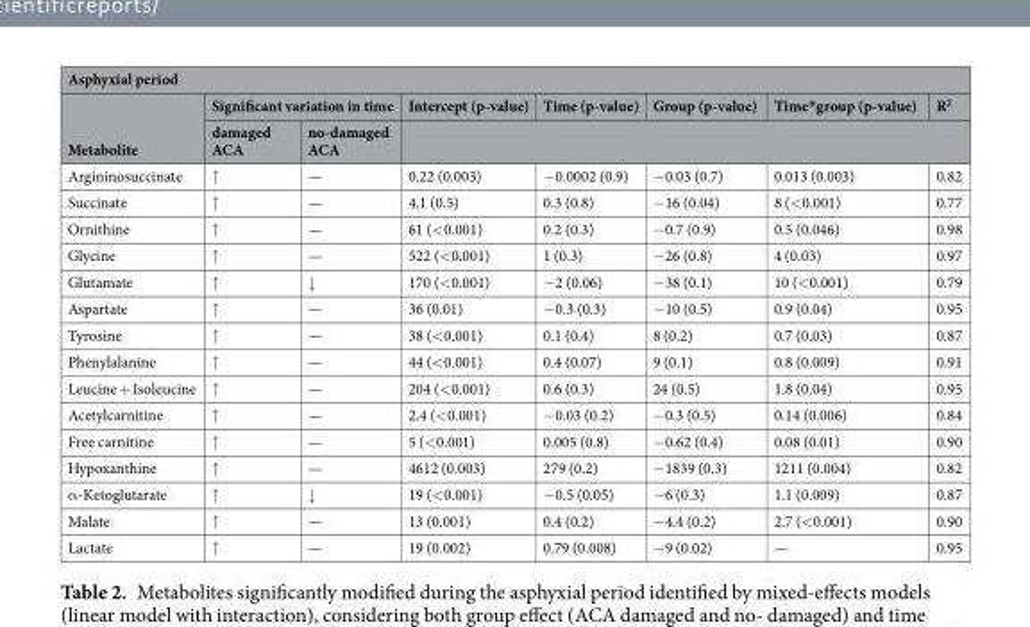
<table><thead><tr><td colspan="8">Asphyxial period</td></tr><tr><td rowspan="2">Metabolite</td><td colspan="2">Significant variation in time</td><td rowspan="2">Intercept (p-value)</td><td rowspan="2">Time (p-value)</td><td rowspan="2">Group (p-value)</td><td rowspan="2">Time*group (p-value)</td><td rowspan="2">R<sup>2</sup></td></tr><tr><td>damaged ACA</td><td>no-damaged ACA</td></tr></thead><tbody><tr><td>Argininosuccinate</td><td>↑</td><td>—</td><td>0.22 (0.003)</td><td>−0.0002 (0.9)</td><td>−0.03 (0.7)</td><td>0.013 (0.003)</td><td>0.82</td></tr><tr><td>Succinate</td><td>↑</td><td>—</td><td>4.1 (0.5)</td><td>0.3 (0.8)</td><td>−16 (0.04)</td><td>8 (&lt;0.001)</td><td>0.77</td></tr><tr><td>Ornithine</td><td>↑</td><td>—</td><td>61 (&lt;0.001)</td><td>0.2 (0.3)</td><td>−0.7 (0.9)</td><td>0.5 (0.046)</td><td>0.98</td></tr><tr><td>Glycine</td><td>↑</td><td>—</td><td>522 (&lt;0.001)</td><td>1 (0.3)</td><td>−26 (0.8)</td><td>4 (0.03)</td><td>0.97</td></tr><tr><td>Glutamate</td><td>↑</td><td>↓</td><td>170 (&lt;0.001)</td><td>−2 (0.06)</td><td>−38 (0.1)</td><td>10 (&lt;0.001)</td><td>0.79</td></tr><tr><td>Aspartate</td><td>↑</td><td>—</td><td>36 (0.01)</td><td>−0.3 (0.3)</td><td>−10 (0.5)</td><td>0.9 (0.04)</td><td>0.95</td></tr><tr><td>Tyrosine</td><td>↑</td><td>—</td><td>38 (&lt;0.001)</td><td>0.1 (0.4)</td><td>8 (0.2)</td><td>0.7 (0.03)</td><td>0.87</td></tr><tr><td>Phenylalanine</td><td>↑</td><td>—</td><td>44 (&lt;0.001)</td><td>0.4 (0.07)</td><td>9 (0.1)</td><td>0.8 (0.009)</td><td>0.91</td></tr><tr><td>Leucine + Isoleucine</td><td>↑</td><td>—</td><td>204 (&lt;0.001)</td><td>0.6 (0.3)</td><td>24 (0.5)</td><td>1.8 (0.04)</td><td>0.95</td></tr><tr><td>Acetylcarnitine</td><td>↑</td><td>—</td><td>2.4 (&lt;0.001)</td><td>−0.03 (0.2)</td><td>−0.3 (0.5)</td><td>0.14 (0.006)</td><td>0.84</td></tr><tr><td>Free carnitine</td><td>↑</td><td>—</td><td>5 (&lt;0.001)</td><td>0.005 (0.8)</td><td>−0.62 (0.4)</td><td>0.08 (0.01)</td><td>0.90</td></tr><tr><td>Hypoxanthine</td><td>↑</td><td>—</td><td>4612 (0.003)</td><td>279 (0.2)</td><td>−1839 (0.3)</td><td>1211 (0.004)</td><td>0.82</td></tr><tr><td>α-Ketoglutarate</td><td>↑</td><td>↓</td><td>19 (&lt;0.001)</td><td>−0.5 (0.05)</td><td>−6 (0.3)</td><td>1.1 (0.009)</td><td>0.87</td></tr><tr><td>Malate</td><td>↑</td><td>—</td><td>13 (0.001)</td><td>0.4 (0.2)</td><td>−4.4 (0.2)</td><td>2.7 (&lt;0.001)</td><td>0.90</td></tr><tr><td>Lactate</td><td>↑</td><td>—</td><td>19 (0.002)</td><td>0.79 (0.008)</td><td>−9 (0.02)</td><td>—</td><td>0.95</td></tr></tbody></table>